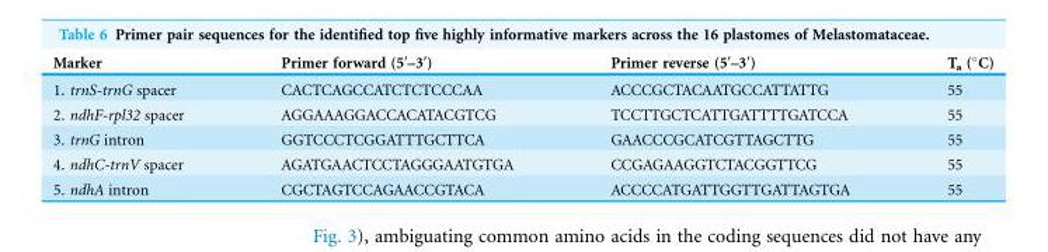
<table><thead><tr><td>Marker</td><td>Primer forward (5′–3′)</td><td>Primer reverse (5′–3′)</td><td>T<sub>a</sub> (°C)</td></tr></thead><tbody><tr><td>1. trnS-trnG spacer</td><td>CACTCAGCCATCTCTCCCAA</td><td>ACCCGCTACAATGCCATTATTG</td><td>55</td></tr><tr><td>2. ndhF-rpl32 spacer</td><td>AGGAAAGGACCACATACGTCG</td><td>TCCTTGCTCATTGATTTTGATCCA</td><td>55</td></tr><tr><td>3. trnG intron</td><td>GGTCCCTCGGATTTGCTTCA</td><td>GAACCCGCATCGTTAGCTTG</td><td>55</td></tr><tr><td>4. ndhC-trnV spacer</td><td>AGATGAACTCCTAGGGAATGTGA</td><td>CCGAGAAGGTCTACGGTTCG</td><td>55</td></tr><tr><td>5. ndhA intron</td><td>CGCTAGTCCAGAACCGTACA</td><td>ACCCCATGATTGGTTGATTAGTGA</td><td>55</td></tr></tbody></table>